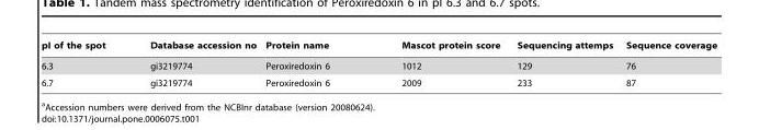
<table><thead><tr><td>pI of the spot</td><td>Database accession no</td><td>Protein name</td><td>Mascot protein score</td><td>Sequencing attemps</td><td>Sequence coverage</td></tr></thead><tbody><tr><td>6.3</td><td>gi3219774</td><td>Peroxiredoxin 6</td><td>1012</td><td>129</td><td>76</td></tr><tr><td>6.7</td><td>gi3219774</td><td>Peroxiredoxin 6</td><td>2009</td><td>233</td><td>87</td></tr></tbody></table>